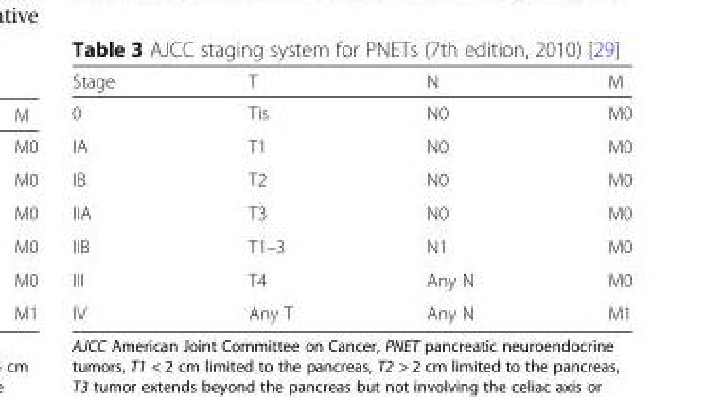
<table><thead><tr><td>Stage</td><td>T</td><td>N</td><td>M</td></tr></thead><tbody><tr><td>0</td><td>Tis</td><td>N0</td><td>M0</td></tr><tr><td>IA</td><td>T1</td><td>N0</td><td>M0</td></tr><tr><td>IB</td><td>T2</td><td>N0</td><td>M0</td></tr><tr><td>IIA</td><td>T3</td><td>N0</td><td>M0</td></tr><tr><td>IIB</td><td>T1–3</td><td>N1</td><td>M0</td></tr><tr><td>III</td><td>T4</td><td>Any N</td><td>M0</td></tr><tr><td>IV</td><td>Any T</td><td>Any N</td><td>M1</td></tr></tbody></table>